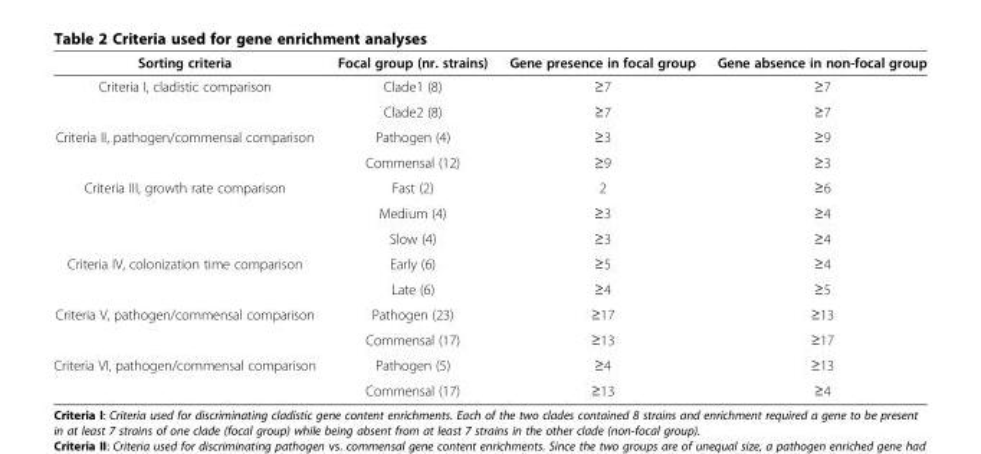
<table><thead><tr><td>Sorting criteria</td><td>Focal group (nr. strains)</td><td>Gene presence in focal group</td><td>Gene absence in non-focal group</td></tr></thead><tbody><tr><td rowspan="2">Criteria I, cladistic comparison</td><td>Clade1 (8)</td><td>≥7</td><td>≥7</td></tr><tr><td>Clade2 (8)</td><td>≥7</td><td>≥7</td></tr><tr><td rowspan="2">Criteria II, pathogen/commensal comparison</td><td>Pathogen (4)</td><td>≥3</td><td>≥9</td></tr><tr><td>Commensal (12)</td><td>≥9</td><td>≥3</td></tr><tr><td rowspan="3">Criteria III, growth rate comparison</td><td>Fast (2)</td><td>2</td><td>≥6</td></tr><tr><td>Medium (4)</td><td>≥3</td><td>≥4</td></tr><tr><td>Slow (4)</td><td>≥3</td><td>≥4</td></tr><tr><td rowspan="2">Criteria IV, colonization time comparison</td><td>Early (6)</td><td>≥5</td><td>≥4</td></tr><tr><td>Late (6)</td><td>≥4</td><td>≥5</td></tr><tr><td rowspan="2">Criteria V, pathogen/commensal comparison</td><td>Pathogen (23)</td><td>≥17</td><td>≥13</td></tr><tr><td>Commensal (17)</td><td>≥13</td><td>≥17</td></tr><tr><td rowspan="2">Criteria VI, pathogen/commensal comparison</td><td>Pathogen (5)</td><td>≥4</td><td>≥13</td></tr><tr><td>Commensal (17)</td><td>≥13</td><td>≥4</td></tr></tbody></table>